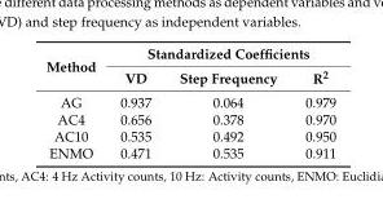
<table><thead><tr><td rowspan="2">Method</td><td colspan="3">Standardized Coefficients</td></tr><tr><td>VD</td><td>Step Frequency</td><td>R<sup>2</sup></td></tr></thead><tbody><tr><td>AG</td><td>0.937</td><td>0.064</td><td>0.979</td></tr><tr><td>AC4</td><td>0.656</td><td>0.378</td><td>0.970</td></tr><tr><td>AC10</td><td>0.535</td><td>0.492</td><td>0.950</td></tr><tr><td>ENMO</td><td>0.471</td><td>0.535</td><td>0.911</td></tr></tbody></table>